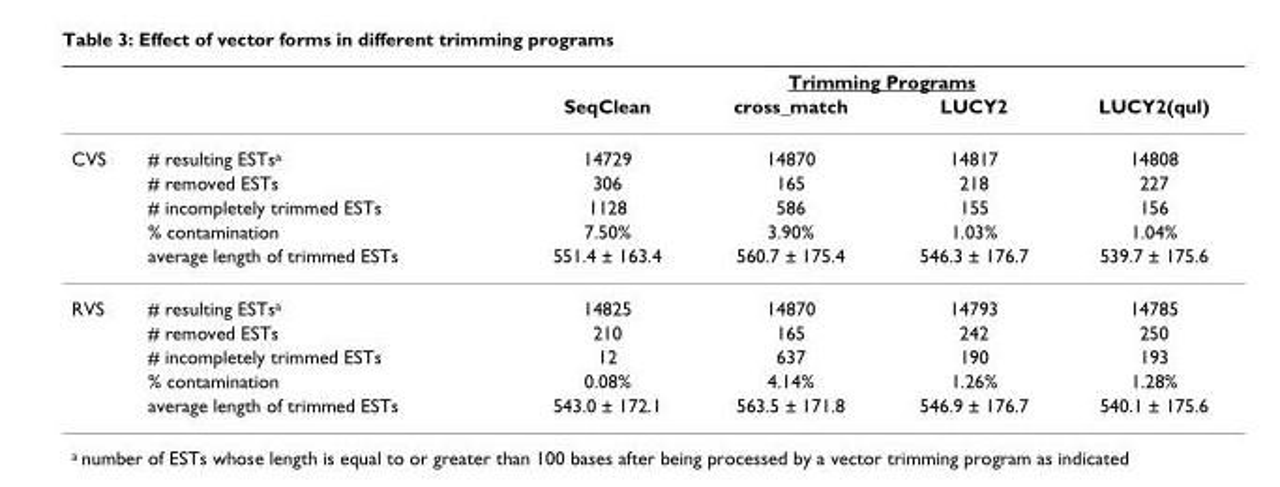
<table><thead><tr><td rowspan="2"></td><td rowspan="2"></td><td colspan="4">Trimming Programs</td></tr><tr><td>SeqClean</td><td>cross_match</td><td>LUCY2</td><td>LUCY2(qul)</td></tr></thead><tbody><tr><td rowspan="5">CVS</td><td># resulting ESTs<sup>a</sup></td><td>14729</td><td>14870</td><td>14817</td><td>14808</td></tr><tr><td># removed ESTs</td><td>306</td><td>165</td><td>218</td><td>227</td></tr><tr><td># incompletely trimmed ESTs</td><td>1128</td><td>586</td><td>155</td><td>156</td></tr><tr><td>% contamination</td><td>7.50%</td><td>3.90%</td><td>1.03%</td><td>1.04%</td></tr><tr><td>average length of trimmed ESTs</td><td>551.4 ± 163.4</td><td>560.7 ± 175.4</td><td>546.3 ± 176.7</td><td>539.7 ± 175.6</td></tr><tr><td rowspan="5">RVS</td><td># resulting ESTs<sup>a</sup></td><td>14825</td><td>14870</td><td>14793</td><td>14785</td></tr><tr><td># removed ESTs</td><td>210</td><td>165</td><td>242</td><td>250</td></tr><tr><td># incompletely trimmed ESTs</td><td>12</td><td>637</td><td>190</td><td>193</td></tr><tr><td>% contamination</td><td>0.08%</td><td>4.14%</td><td>1.26%</td><td>1.28%</td></tr><tr><td>average length of trimmed ESTs</td><td>543.0 ± 172.1</td><td>563.5 ± 171.8</td><td>546.9 ± 176.7</td><td>540.1 ± 175.6</td></tr></tbody></table>